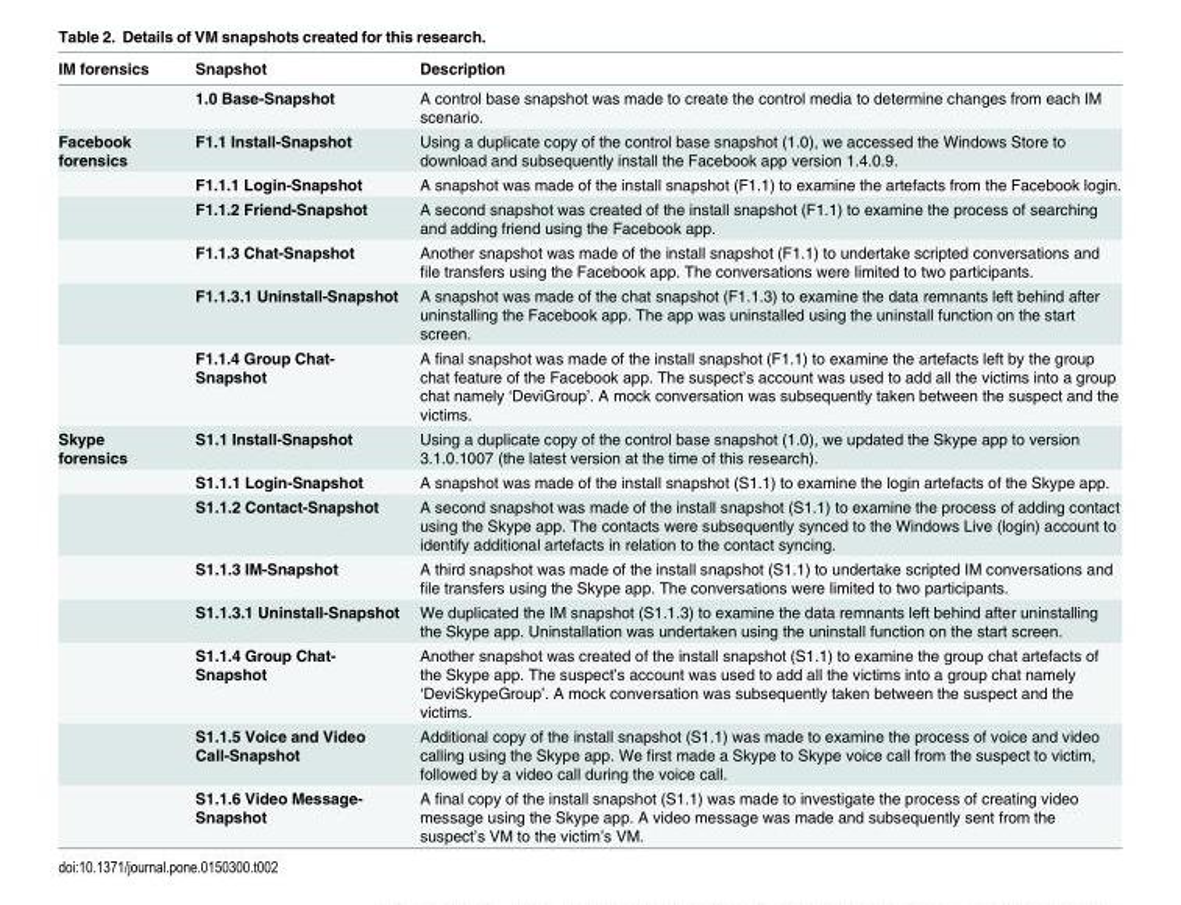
<table><thead><tr><td>IM forensics</td><td>Snapshot</td><td>Description</td></tr></thead><tbody><tr><td></td><td>1.0 Base-Snapshot</td><td>A control base snapshot was made to create the control media to determine changes from each IM scenario.</td></tr><tr><td rowspan="6">Facebook forensics</td><td>F1.1 Install-Snapshot</td><td>Using a duplicate copy of the control base snapshot (1.0), we accessed the Windows Store to download and subsequently install the Facebook app version 1.4.0.9.</td></tr><tr><td>F1.1.1 Login-Snapshot</td><td>A snapshot was made of the install snapshot (F1.1) to examine the artefacts from the Facebook login.</td></tr><tr><td>F1.1.2 Friend-Snapshot</td><td>A second snapshot was created of the install snapshot (F1.1) to examine the process of searching and adding friend using the Facebook app.</td></tr><tr><td>F1.1.3 Chat-Snapshot</td><td>Another snapshot was made of the install snapshot (F1.1) to undertake scripted conversations and file transfers using the Facebook app. The conversations were limited to two participants.</td></tr><tr><td>F1.1.3.1 Uninstall-Snapshot</td><td>A snapshot was made of the chat snapshot (F1.1.3) to examine the data remnants left behind after uninstalling the Facebook app. The app was uninstalled using the uninstall function on the start screen.</td></tr><tr><td>F1.1.4 Group Chat- Snapshot</td><td>A final snapshot was made of the install snapshot (F1.1) to examine the artefacts left by the group chat feature of the Facebook app. The suspect’s account was used to add all the victims into a group chat namely ‘DeviGroup’. A mock conversation was subsequently taken between the suspect and the victims.</td></tr><tr><td rowspan="8">Skype forensics</td><td>S1.1 Install-Snapshot</td><td>Using a duplicate copy of the control base snapshot (1.0), we updated the Skype app to version 3.1.0.1007 (the latest version at the time of this research).</td></tr><tr><td>S1.1.1 Login-Snapshot</td><td>A snapshot was made of the install snapshot (S1.1) to examine the login artefacts of the Skype app.</td></tr><tr><td>S1.1.2 Contact-Snapshot</td><td>A second snapshot was made of the install snapshot (S1.1) to examine the process of adding contact using the Skype app. The contacts were subsequently synced to the Windows Live (login) account to identify additional artefacts in relation to the contact syncing.</td></tr><tr><td>S1.1.3 IM-Snapshot</td><td>A third snapshot was made of the install snapshot (S1.1) to undertake scripted IM conversations and file transfers using the Skype app. The conversations were limited to two participants.</td></tr><tr><td>S1.1.3.1 Uninstall-Snapshot</td><td>We duplicated the IM snapshot (S1.1.3) to examine the data remnants left behind after uninstalling the Skype app. Uninstallation was undertaken using the uninstall function on the start screen.</td></tr><tr><td>S1.1.4 Group Chat- Snapshot</td><td>Another snapshot was created of the install snapshot (S1.1) to examine the group chat artefacts of the Skype app. The suspect’s account was used to add all the victims into a group chat namely ‘DeviSkypeGroup’. A mock conversation was subsequently taken between the suspect and the victims.</td></tr><tr><td>S1.1.5 Voice and Video Call-Snapshot</td><td>Additional copy of the install snapshot (S1.1) was made to examine the process of voice and video calling using the Skype app. We first made a Skype to Skype voice call from the suspect to victim, followed by a video call during the voice call.</td></tr><tr><td>S1.1.6 Video Message- Snapshot</td><td>A final copy of the install snapshot (S1.1) was made to investigate the process of creating video message using the Skype app. A video message was made and subsequently sent from the suspect’s VM to the victim’s VM.</td></tr></tbody></table>